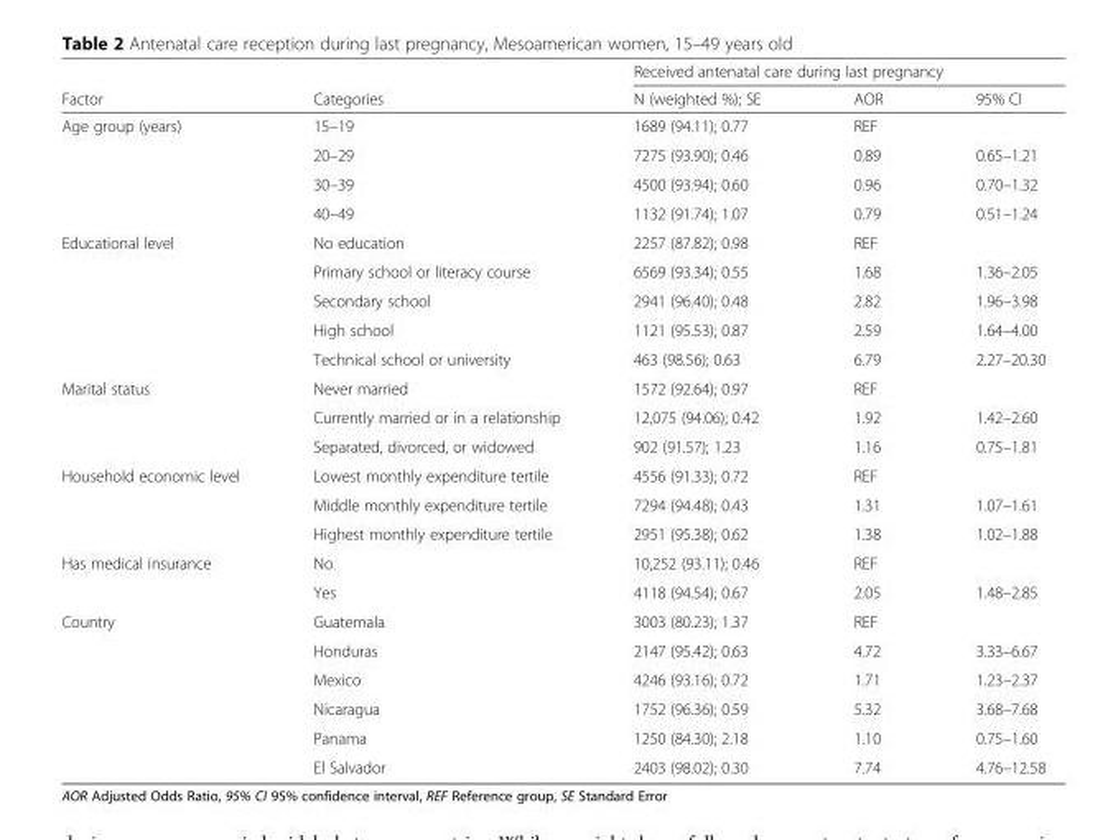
<table><thead><tr><td rowspan="2">Factor</td><td rowspan="2">Categories</td><td colspan="3">Received antenatal care during last pregnancy</td></tr><tr><td>N (weighted %); SE</td><td>AOR</td><td>95% CI</td></tr></thead><tbody><tr><td rowspan="4">Age group (years)</td><td>15–19</td><td>1689 (94.11); 0.77</td><td>REF</td><td></td></tr><tr><td>20–29</td><td>7275 (93.90); 0.46</td><td>0.89</td><td>0.65–1.21</td></tr><tr><td>30–39</td><td>4500 (93.94); 0.60</td><td>0.96</td><td>0.70–1.32</td></tr><tr><td>40–49</td><td>1132 (91.74); 1.07</td><td>0.79</td><td>0.51–1.24</td></tr><tr><td rowspan="5">Educational level</td><td>No education</td><td>2257 (87.82); 0.98</td><td>REF</td><td></td></tr><tr><td>Primary school or literacy course</td><td>6569 (93.34); 0.55</td><td>1.68</td><td>1.36–2.05</td></tr><tr><td>Secondary school</td><td>2941 (96.40); 0.48</td><td>2.82</td><td>1.96–3.98</td></tr><tr><td>High school</td><td>1121 (95.53); 0.87</td><td>2.59</td><td>1.64–4.00</td></tr><tr><td>Technical school or university</td><td>463 (98.56); 0.63</td><td>6.79</td><td>2.27–20.30</td></tr><tr><td rowspan="3">Marital status</td><td>Never married</td><td>1572 (92.64); 0.97</td><td>REF</td><td></td></tr><tr><td>Currently married or in a relationship</td><td>12,075 (94.06); 0.42</td><td>1.92</td><td>1.42–2.60</td></tr><tr><td>Separated, divorced, or widowed</td><td>902 (91.57); 1.23</td><td>1.16</td><td>0.75–1.81</td></tr><tr><td rowspan="3">Household economic level</td><td>Lowest monthly expenditure tertile</td><td>4556 (91.33); 0.72</td><td>REF</td><td></td></tr><tr><td>Middle monthly expenditure tertile</td><td>7294 (94.48); 0.43</td><td>1.31</td><td>1.07–1.61</td></tr><tr><td>Highest monthly expenditure tertile</td><td>2951 (95.38); 0.62</td><td>1.38</td><td>1.02–1.88</td></tr><tr><td rowspan="2">Has medical insurance</td><td>No</td><td>10,252 (93.11); 0.46</td><td>REF</td><td></td></tr><tr><td>Yes</td><td>4118 (94.54); 0.67</td><td>2.05</td><td>1.48–2.85</td></tr><tr><td rowspan="6">Country</td><td>Guatemala</td><td>3003 (80.23); 1.37</td><td>REF</td><td></td></tr><tr><td>Honduras</td><td>2147 (95.42); 0.63</td><td>4.72</td><td>3.33–6.67</td></tr><tr><td>Mexico</td><td>4246 (93.16); 0.72</td><td>1.71</td><td>1.23–2.37</td></tr><tr><td>Nicaragua</td><td>1752 (96.36); 0.59</td><td>5.32</td><td>3.68–7.68</td></tr><tr><td>Panama</td><td>1250 (84.30); 2.18</td><td>1.10</td><td>0.75–1.60</td></tr><tr><td>El Salvador</td><td>2403 (98.02); 0.30</td><td>7.74</td><td>4.76–12.58</td></tr></tbody></table>